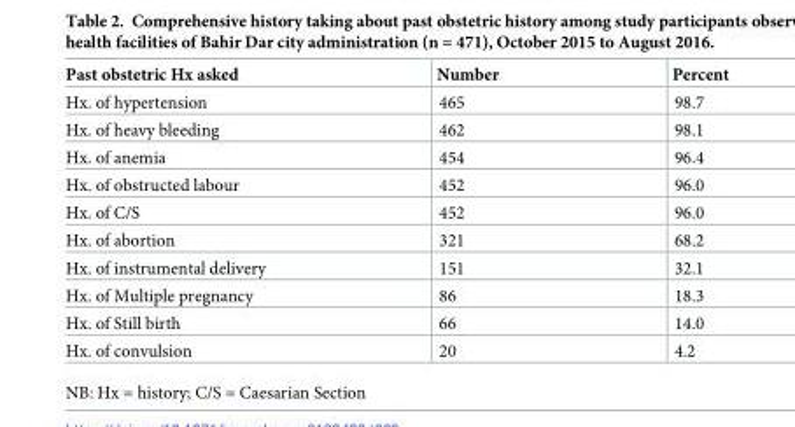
<table><thead><tr><td>Past obstetric Hx asked</td><td>Number</td><td>Percent</td></tr></thead><tbody><tr><td>Hx. of hypertension</td><td>465</td><td>98.7</td></tr><tr><td>Hx. of heavy bleeding</td><td>462</td><td>98.1</td></tr><tr><td>Hx. of anemia</td><td>454</td><td>96.4</td></tr><tr><td>Hx. of obstructed labour</td><td>452</td><td>96.0</td></tr><tr><td>Hx. of C/S</td><td>452</td><td>96.0</td></tr><tr><td>Hx. of abortion</td><td>321</td><td>68.2</td></tr><tr><td>Hx. of instrumental delivery</td><td>151</td><td>32.1</td></tr><tr><td>Hx. of Multiple pregnancy</td><td>86</td><td>18.3</td></tr><tr><td>Hx. of Still birth</td><td>66</td><td>14.0</td></tr><tr><td>Hx. of convulsion</td><td>20</td><td>4.2</td></tr></tbody></table>